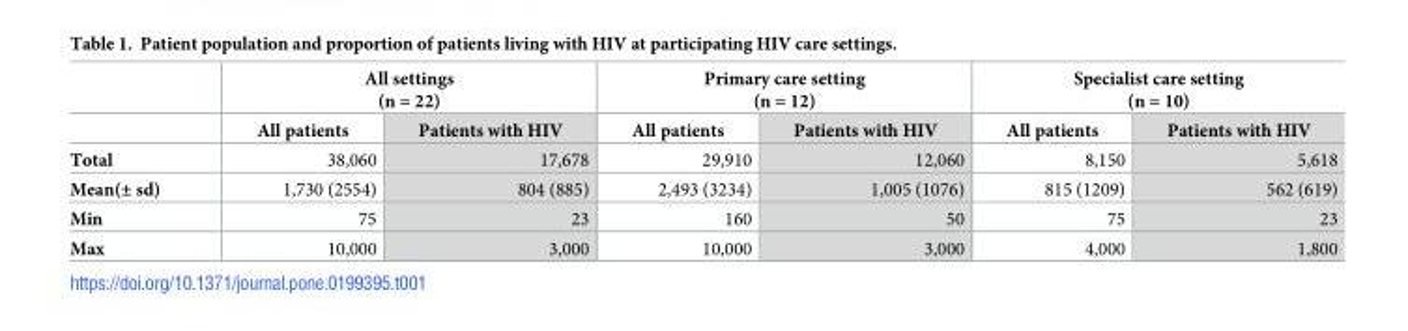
<table><thead><tr><td rowspan="2"></td><td colspan="2">All settings (n = 22)</td><td colspan="2">Primary care setting (n = 12)</td><td colspan="2">Specialist care setting (n = 10)</td></tr><tr><td>All patients</td><td>Patients with HIV</td><td>All patients</td><td>Patients with HIV</td><td>All patients</td><td>Patients with HIV</td></tr></thead><tbody><tr><td>Total</td><td>38,060</td><td>17,678</td><td>29,910</td><td>12,060</td><td>8,150</td><td>5,618</td></tr><tr><td>Mean(± sd)</td><td>1,730 (2554)</td><td>804 (885)</td><td>2,493 (3234)</td><td>1,005 (1076)</td><td>815 (1209)</td><td>562 (619)</td></tr><tr><td>Min</td><td>75</td><td>23</td><td>160</td><td>50</td><td>75</td><td>23</td></tr><tr><td>Max</td><td>10,000</td><td>3,000</td><td>10,000</td><td>3,000</td><td>4,000</td><td>1,800</td></tr></tbody></table>